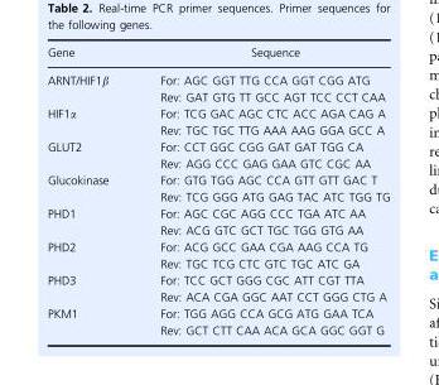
<table><thead><tr><td>Gene</td><td>Sequence</td></tr></thead><tbody><tr><td rowspan="2">ARNT/HIF1β</td><td>For: AGC GGT TTG CCA GGT CGG ATG</td></tr><tr><td>Rev: GAT GTG TT GCC AGT TCC CCT CAA</td></tr><tr><td rowspan="2">HIF1α</td><td>For: TCG GAC AGC CTC ACC AGA CAG A</td></tr><tr><td>Rev: TGC TGC TTG AAA AAG GGA GCC A</td></tr><tr><td rowspan="2">GLUT2</td><td>For: CCT GGC CGG GAT GAT TGG CA</td></tr><tr><td>Rev: AGG CCC GAG GAA GTC CGC AA</td></tr><tr><td rowspan="2">Glucokinase</td><td>For: GTG TGG AGC CCA GTT GTT GAC T</td></tr><tr><td>Rev: TCG GGG ATG GAG TAC ATC TGG TG</td></tr><tr><td rowspan="2">PHD1</td><td>For: AGC CGC AGG CCC TGA ATC AA</td></tr><tr><td>Rev: ACG GTC GCT TGC TGG GTG AA</td></tr><tr><td rowspan="2">PHD2</td><td>For: ACG GCC GAA CGA AAG CCA TG</td></tr><tr><td>Rev: TGC TCG CTC GTC TGC ATC GA</td></tr><tr><td rowspan="2">PHD3</td><td>For: TCC GCT GGG CGC ATT CGT TTA</td></tr><tr><td>Rev: ACA CGA GGC AAT CCT GGG CTG A</td></tr><tr><td rowspan="2">PKM1</td><td>For: TGG AGG CCA GCG ATG GAA TCA</td></tr><tr><td>Rev: GCT CTT CAA ACA GCA GGC GGT G</td></tr></tbody></table>